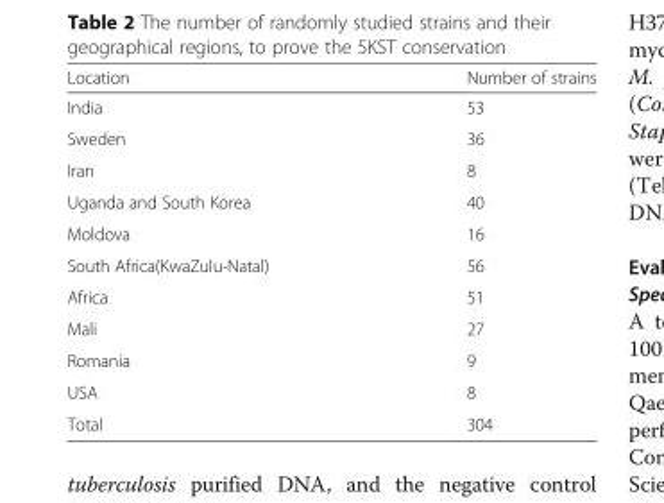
<table><thead><tr><td>Location</td><td>Number of strains</td></tr></thead><tbody><tr><td>India</td><td>53</td></tr><tr><td>Sweden</td><td>36</td></tr><tr><td>Iran</td><td>8</td></tr><tr><td>Uganda and South Korea</td><td>40</td></tr><tr><td>Moldova</td><td>16</td></tr><tr><td>South Africa(KwaZulu-Natal)</td><td>56</td></tr><tr><td>Africa</td><td>51</td></tr><tr><td>Mali</td><td>27</td></tr><tr><td>Romania</td><td>9</td></tr><tr><td>USA</td><td>8</td></tr><tr><td>Total</td><td>304</td></tr></tbody></table>